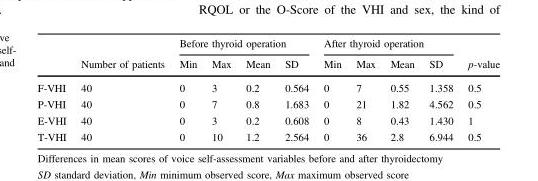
<table><thead><tr><td rowspan="2"></td><td rowspan="2">Number of patients</td><td colspan="4">Before thyroid operation</td><td colspan="4">After thyroid operation</td><td rowspan="2">p-value</td></tr><tr><td>Min</td><td>Max</td><td>Mean</td><td>SD</td><td>Min</td><td>Max</td><td>Mean</td><td>SD</td></tr></thead><tbody><tr><td>F-VHI</td><td>40</td><td>0</td><td>3</td><td>0.2</td><td>0.564</td><td>0</td><td>7</td><td>0.55</td><td>1.358</td><td>0.5</td></tr><tr><td>P-VHI</td><td>40</td><td>0</td><td>7</td><td>0.8</td><td>1.683</td><td>0</td><td>21</td><td>1.82</td><td>4.562</td><td>0.5</td></tr><tr><td>E-VHI</td><td>40</td><td>0</td><td>3</td><td>0.2</td><td>0.608</td><td>0</td><td>8</td><td>0.43</td><td>1.430</td><td>1</td></tr><tr><td>T-VHI</td><td>40</td><td>0</td><td>10</td><td>1.2</td><td>2.564</td><td>0</td><td>36</td><td>2.8</td><td>6.944</td><td>0.5</td></tr></tbody></table>